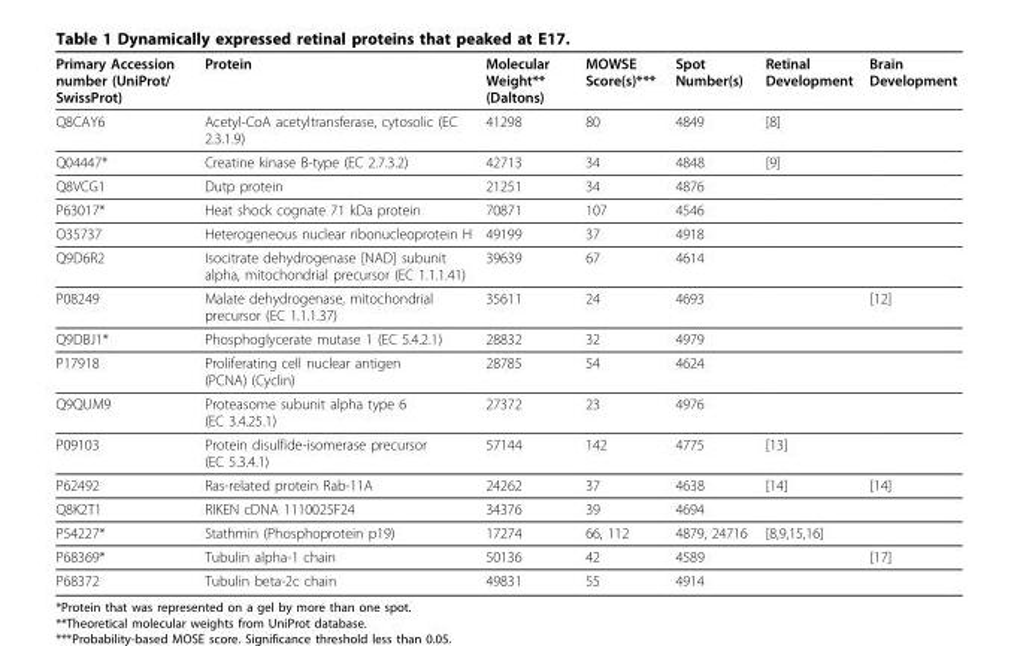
<table><thead><tr><td>Primary Accession number (UniProt/ SwissProt)</td><td>Protein</td><td>Molecular Weight** (Daltons)</td><td>MOWSE Score(s)***</td><td>Spot Number(s)</td><td>Retinal Development</td><td>Brain Development</td></tr></thead><tbody><tr><td>Q8CAY6</td><td>Acetyl-CoA acetyltransferase, cytosolic (EC 2.3.1.9)</td><td>41298</td><td>80</td><td>4849</td><td>[8]</td><td></td></tr><tr><td>Q04447*</td><td>Creatine kinase B-type (EC 2.7.3.2)</td><td>42713</td><td>34</td><td>4848</td><td>[9]</td><td></td></tr><tr><td>Q8VCG1</td><td>Dutp protein</td><td>21251</td><td>34</td><td>4876</td><td></td><td></td></tr><tr><td>P63017*</td><td>Heat shock cognate 71 kDa protein</td><td>70871</td><td>107</td><td>4546</td><td></td><td></td></tr><tr><td>O35737</td><td>Heterogeneous nuclear ribonucleoprotein H</td><td>49199</td><td>37</td><td>4918</td><td></td><td></td></tr><tr><td>Q9D6R2</td><td>Isocitrate dehydrogenase [NAD] subunit alpha, mitochondrial precursor (EC 1.1.1.41)</td><td>39639</td><td>67</td><td>4614</td><td></td><td></td></tr><tr><td>P08249</td><td>Malate dehydrogenase, mitochondrial precursor (EC 1.1.1.37)</td><td>35611</td><td>24</td><td>4693</td><td></td><td>[12]</td></tr><tr><td>Q9DBJ1*</td><td>Phosphoglycerate mutase 1 (EC 5.4.2.1)</td><td>28832</td><td>32</td><td>4979</td><td></td><td></td></tr><tr><td>P17918</td><td>Proliferating cell nuclear antigen (PCNA) (Cyclin)</td><td>28785</td><td>54</td><td>4624</td><td></td><td></td></tr><tr><td>Q9QUM9</td><td>Proteasome subunit alpha type 6 (EC 3.4.25.1)</td><td>27372</td><td>23</td><td>4976</td><td></td><td></td></tr><tr><td>P09103</td><td>Protein disulfide-isomerase precursor (EC 5.3.4.1)</td><td>57144</td><td>142</td><td>4775</td><td>[13]</td><td></td></tr><tr><td>P62492</td><td>Ras-related protein Rab-11A</td><td>24262</td><td>37</td><td>4638</td><td>[14]</td><td>[14]</td></tr><tr><td>Q8K2T1</td><td>RIKEN cDNA 1110025F24</td><td>34376</td><td>39</td><td>4694</td><td></td><td></td></tr><tr><td>P54227*</td><td>Stathmin (Phosphoprotein p19)</td><td>17274</td><td>66, 112</td><td>4879, 24716</td><td>[8,9,15,16]</td><td></td></tr><tr><td>P68369*</td><td>Tubulin alpha-1 chain</td><td>50136</td><td>42</td><td>4589</td><td></td><td>[17]</td></tr><tr><td>P68372</td><td>Tubulin beta-2c chain</td><td>49831</td><td>55</td><td>4914</td><td></td><td></td></tr></tbody></table>